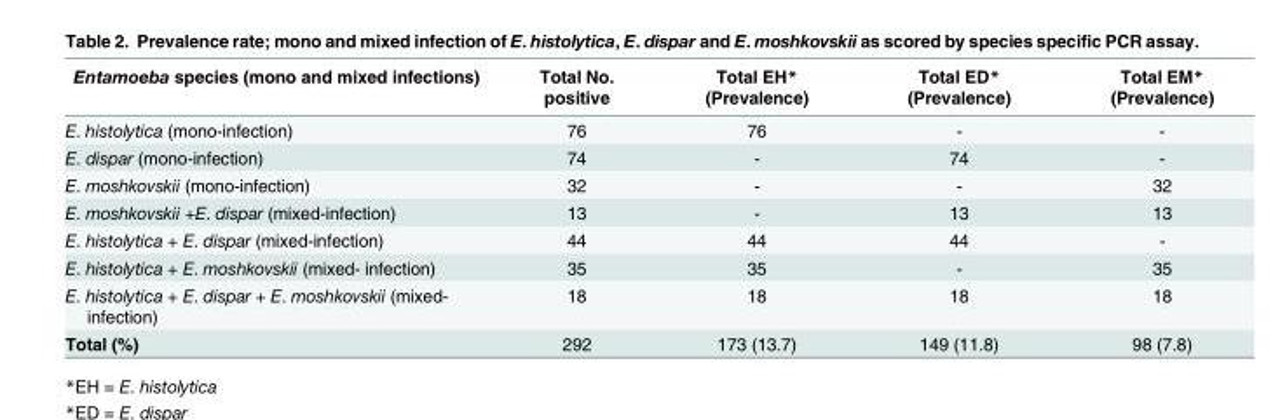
<table><thead><tr><td>Entamoeba species (mono and mixed infections)</td><td>Total No. positive</td><td>Total EH* (Prevalence)</td><td>Total ED* (Prevalence)</td><td>Total EM* (Prevalence)</td></tr></thead><tbody><tr><td>E. histolytica (mono-infection)</td><td>76</td><td>76</td><td>-</td><td>-</td></tr><tr><td>E. dispar (mono-infection)</td><td>74</td><td>-</td><td>74</td><td>-</td></tr><tr><td>E. moshkovskii (mono-infection)</td><td>32</td><td>-</td><td>-</td><td>32</td></tr><tr><td>E. moshkovskii +E. dispar (mixed-infection)</td><td>13</td><td>-</td><td>13</td><td>13</td></tr><tr><td>E. histolytica + E. dispar (mixed-infection)</td><td>44</td><td>44</td><td>44</td><td>-</td></tr><tr><td>E. histolytica + E. moshkovskii (mixed- infection)</td><td>35</td><td>35</td><td>-</td><td>35</td></tr><tr><td>E. histolytica + E. dispar + E. moshkovskii (mixed- infection)</td><td>18</td><td>18</td><td>18</td><td>18</td></tr><tr><td>Total (%)</td><td>292</td><td>173 (13.7)</td><td>149 (11.8)</td><td>98 (7.8)</td></tr></tbody></table>